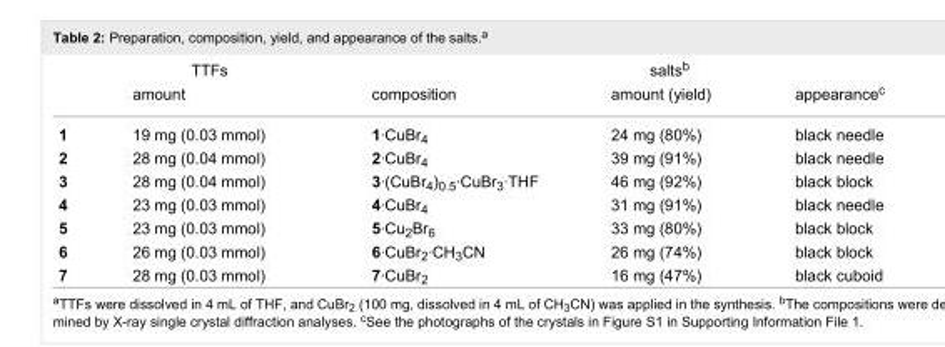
<table><tbody><tr><td colspan="2">TTFs</td><td colspan="3">salts<sup>b</sup></td></tr><tr><td></td><td>amount</td><td>composition</td><td>amount (yield)</td><td>appearance<sup>c</sup></td></tr><tr><td>1</td><td>19 mg (0.03 mmol)</td><td>1·CuBr<sub>4</sub></td><td>24 mg (80%)</td><td>black needle</td></tr><tr><td>2</td><td>28 mg (0.04 mmol)</td><td>2·CuBr<sub>4</sub></td><td>39 mg (91%)</td><td>black needle</td></tr><tr><td>3</td><td>28 mg (0.04 mmol)</td><td>3·(CuBr<sub>4</sub>)<sub>0.5</sub>·CuBr<sub>3</sub>·THF</td><td>46 mg (92%)</td><td>black block</td></tr><tr><td>4</td><td>23 mg (0.03 mmol)</td><td>4·CuBr<sub>4</sub></td><td>31 mg (91%)</td><td>black needle</td></tr><tr><td>5</td><td>23 mg (0.03 mmol)</td><td>5·Cu<sub>2</sub>Br<sub>6</sub></td><td>33 mg (80%)</td><td>black block</td></tr><tr><td>6</td><td>26 mg (0.03 mmol)</td><td>6·CuBr<sub>2</sub>·CH<sub>3</sub>CN</td><td>26 mg (74%)</td><td>black block</td></tr><tr><td>7</td><td>28 mg (0.03 mmol)</td><td>7·CuBr<sub>2</sub></td><td>16 mg (47%)</td><td>black cuboid</td></tr></tbody></table>